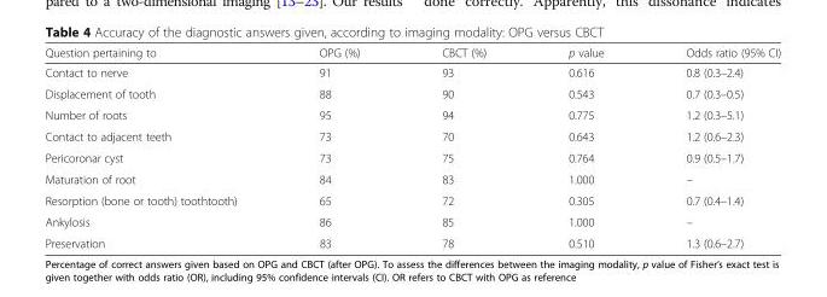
<table><thead><tr><td>Question pertaining to</td><td>OPG (%)</td><td>CBCT (%)</td><td>p value</td><td>Odds ratio (95% CI)</td></tr></thead><tbody><tr><td>Contact to nerve</td><td>91</td><td>93</td><td>0.616</td><td>0.8 (0.3–2.4)</td></tr><tr><td>Displacement of tooth</td><td>88</td><td>90</td><td>0.543</td><td>0.7 (0.3–0.5)</td></tr><tr><td>Number of roots</td><td>95</td><td>94</td><td>0.775</td><td>1.2 (0.3–5.1)</td></tr><tr><td>Contact to adjacent teeth</td><td>73</td><td>70</td><td>0.643</td><td>1.2 (0.6–2.3)</td></tr><tr><td>Pericoronar cyst</td><td>73</td><td>75</td><td>0.764</td><td>0.9 (0.5–1.7)</td></tr><tr><td>Maturation of root</td><td>84</td><td>83</td><td>1.000</td><td>–</td></tr><tr><td>Resorption (bone or tooth) toothtooth)</td><td>65</td><td>72</td><td>0.305</td><td>0.7 (0.4–1.4)</td></tr><tr><td>Ankylosis</td><td>86</td><td>85</td><td>1.000</td><td>–</td></tr><tr><td>Preservation</td><td>83</td><td>78</td><td>0.510</td><td>1.3 (0.6–2.7)</td></tr></tbody></table>